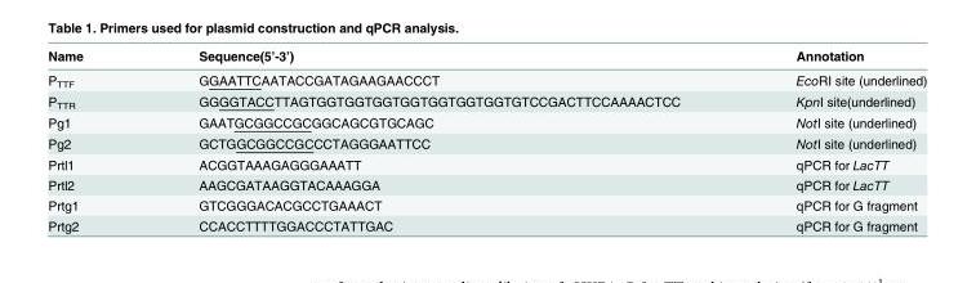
<table><thead><tr><td>Name</td><td>Sequence(5’-3’)</td><td>Annotation</td></tr></thead><tbody><tr><td>P<sub>TTF</sub></td><td>GGAATTCAATACCGATAGAAGAACCCT</td><td>EcoRI site (underlined)</td></tr><tr><td>P<sub>TTR</sub></td><td>GGGGTACCTTAGTGGTGGTGGTGGTGGTGGTGGTGTCCGACTTCCAAAACTCC</td><td>KpnI site(underlined)</td></tr><tr><td>Pg1</td><td>GAATGCGGCCGCGGCAGCGTGCAGC</td><td>NotI site (underlined)</td></tr><tr><td>Pg2</td><td>GCTGGCGGCCGCCCTAGGGAATTCC</td><td>NotI site (underlined)</td></tr><tr><td>Prtl1</td><td>ACGGTAAAGAGGGAAATT</td><td>qPCR for LacTT</td></tr><tr><td>Prtl2</td><td>AAGCGATAAGGTACAAAGGA</td><td>qPCR for LacTT</td></tr><tr><td>Prtg1</td><td>GTCGGGACACGCCTGAAACT</td><td>qPCR for G fragment</td></tr><tr><td>Prtg2</td><td>CCACCTTTTGGACCCTATTGAC</td><td>qPCR for G fragment</td></tr></tbody></table>